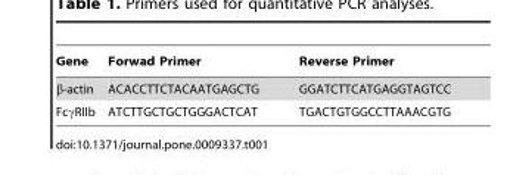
<table><thead><tr><td>Gene</td><td>Forwad Primer</td><td>Reverse Primer</td></tr></thead><tbody><tr><td>β-actin</td><td>ACACCTTCTACAATGAGCTG</td><td>GGATCTTCATGAGGTAGTCC</td></tr><tr><td>FcγRIIb</td><td>ATCTTGCTGCTGGGACTCAT</td><td>TGACTGTGGCCTTAAACGTG</td></tr></tbody></table>